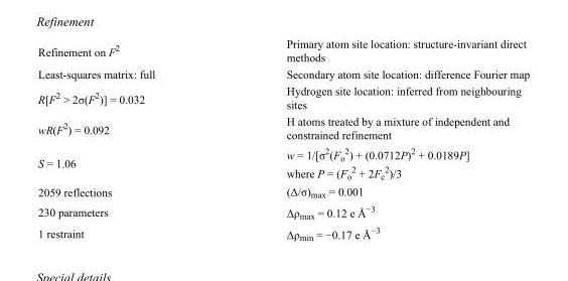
<table><tbody><tr><td>Refinement on F<sup>2</sup></td><td>Primary atom site location: structure-invariant direct methods</td></tr><tr><td>Least-squares matrix: full</td><td>Secondary atom site location: difference Fourier map</td></tr><tr><td>R[F<sup>2</sup> &gt; 2σ(F<sup>2</sup>)] = 0.032</td><td>Hydrogen site location: inferred from neighbouring sites</td></tr><tr><td>wR(F<sup>2</sup>) = 0.092</td><td>H atoms treated by a mixture of independent and constrained refinement</td></tr><tr><td>S = 1.06</td><td>w = 1/[σ<sup>2</sup>(F<sub>o</sub> <sup>2</sup>) + (0.0712P)<sup>2</sup> + 0.0189P] where P = (F<sub>o</sub> <sup>2</sup> + 2F<sub>c</sub> <sup>2</sup>)/3</td></tr><tr><td>2059 reflections</td><td>(Δ/σ)<sub>max</sub> = 0.001</td></tr><tr><td>230 parameters</td><td>Δρ<sub>max</sub> = 0.12 e Å<sup>−3</sup></td></tr><tr><td>1 restraint</td><td>Δρ<sub>min</sub> = −0.17 e Å<sup>−3</sup></td></tr></tbody></table>